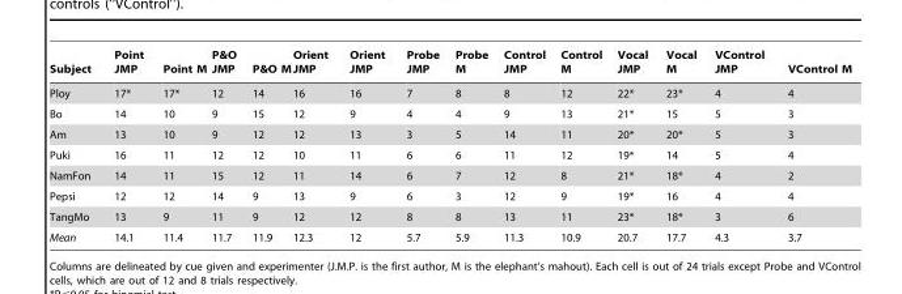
<table><thead><tr><td>Subject</td><td>Point JMP</td><td>Point M</td><td>P&amp;O JMP</td><td>P&amp;O M</td><td>Orient JMP</td><td>Orient JMP</td><td>Probe JMP</td><td>Probe M</td><td>Control JMP</td><td>Control M</td><td>Vocal JMP</td><td>Vocal M</td><td>VControl JMP</td><td>VControl M</td></tr></thead><tbody><tr><td>Ploy</td><td>17*</td><td>17*</td><td>12</td><td>14</td><td>16</td><td>16</td><td>7</td><td>8</td><td>8</td><td>12</td><td>22*</td><td>23*</td><td>4</td><td>4</td></tr><tr><td>Bo</td><td>14</td><td>10</td><td>9</td><td>15</td><td>12</td><td>9</td><td>4</td><td>4</td><td>9</td><td>13</td><td>21*</td><td>15</td><td>5</td><td>3</td></tr><tr><td>Am</td><td>13</td><td>10</td><td>9</td><td>12</td><td>12</td><td>13</td><td>3</td><td>5</td><td>14</td><td>11</td><td>20*</td><td>20*</td><td>5</td><td>3</td></tr><tr><td>Puki</td><td>16</td><td>11</td><td>12</td><td>12</td><td>10</td><td>11</td><td>6</td><td>6</td><td>11</td><td>12</td><td>19*</td><td>14</td><td>5</td><td>4</td></tr><tr><td>NamFon</td><td>14</td><td>11</td><td>15</td><td>12</td><td>11</td><td>14</td><td>6</td><td>7</td><td>12</td><td>8</td><td>21*</td><td>18*</td><td>4</td><td>2</td></tr><tr><td>Pepsi</td><td>12</td><td>12</td><td>14</td><td>9</td><td>13</td><td>9</td><td>6</td><td>3</td><td>12</td><td>9</td><td>19*</td><td>16</td><td>4</td><td>4</td></tr><tr><td>TangMo</td><td>13</td><td>9</td><td>11</td><td>9</td><td>12</td><td>12</td><td>8</td><td>8</td><td>13</td><td>11</td><td>23*</td><td>18*</td><td>3</td><td>6</td></tr><tr><td>Mean</td><td>14.1</td><td>11.4</td><td>11.7</td><td>11.9</td><td>12.3</td><td>12</td><td>5.7</td><td>5.9</td><td>11.3</td><td>10.9</td><td>20.7</td><td>17.7</td><td>4.3</td><td>3.7</td></tr></tbody></table>